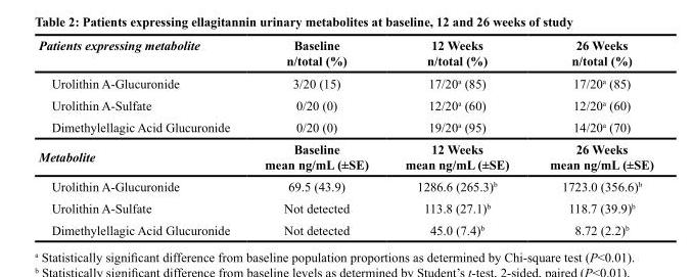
<table><thead><tr><td>Patients expressing metabolite</td><td>Baseline n/total (%)</td><td>12 Weeks n/total (%)</td><td>26 Weeks n/total (%)</td></tr></thead><tbody><tr><td>Urolithin A-Glucuronide</td><td>3/20 (15)</td><td>17/20<sup>a</sup> (85)</td><td>17/20<sup>a</sup> (85)</td></tr><tr><td>Urolithin A-Sulfate</td><td>0/20 (0)</td><td>12/20<sup>a</sup> (60)</td><td>12/20<sup>a</sup> (60)</td></tr><tr><td>Dimethylellagic Acid Glucuronide</td><td>0/20 (0)</td><td>19/20<sup>a</sup> (95)</td><td>14/20<sup>a</sup> (70)</td></tr><tr><td>Metabolite</td><td>Baseline mean ng/mL (±SE)</td><td>12 Weeks mean ng/mL (±SE)</td><td>26 Weeks mean ng/mL (±SE)</td></tr><tr><td>Urolithin A-Glucuronide</td><td>69.5 (43.9)</td><td>1286.6 (265.3)<sup>b</sup></td><td>1723.0 (356.6)<sup>b</sup></td></tr><tr><td>Urolithin A-Sulfate</td><td>Not detected</td><td>113.8 (27.1)<sup>b</sup></td><td>118.7 (39.9)<sup>b</sup></td></tr><tr><td>Dimethylellagic Acid Glucuronide</td><td>Not detected</td><td>45.0 (7.4)<sup>b</sup></td><td>8.72 (2.2)<sup>b</sup></td></tr></tbody></table>